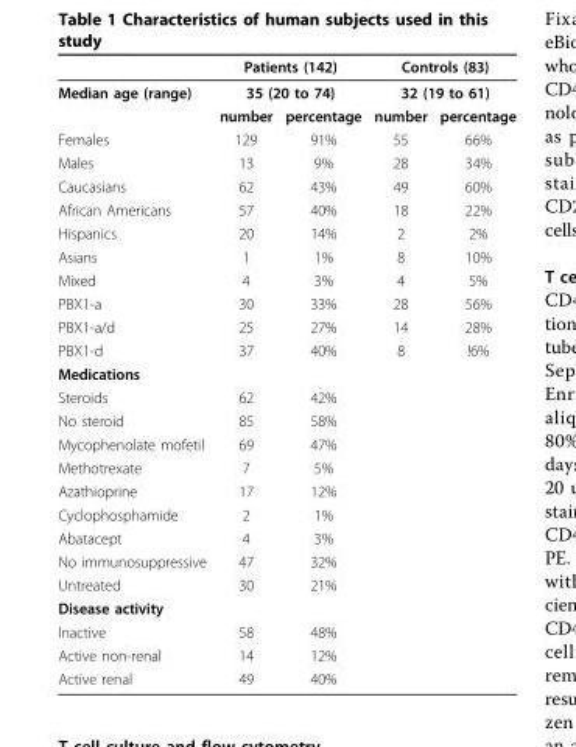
<table><thead><tr><td rowspan="3">Median age (range)</td><td rowspan="2" colspan="2">Patients (142) 35 (20 to 74)</td><td rowspan="2" colspan="2">Controls (83) 32 (19 to 61)</td></tr><tr></tr><tr><td>number</td><td>percentage</td><td>number</td><td>percentage</td></tr></thead><tbody><tr><td>Females</td><td>129</td><td>91%</td><td>55</td><td>66%</td></tr><tr><td>Males</td><td>13</td><td>9%</td><td>28</td><td>34%</td></tr><tr><td>Caucasians</td><td>62</td><td>43%</td><td>49</td><td>60%</td></tr><tr><td>African Americans</td><td>57</td><td>40%</td><td>18</td><td>22%</td></tr><tr><td>Hispanics</td><td>20</td><td>14%</td><td>2</td><td>2%</td></tr><tr><td>Asians</td><td>1</td><td>1%</td><td>8</td><td>10%</td></tr><tr><td>Mixed</td><td>4</td><td>3%</td><td>4</td><td>5%</td></tr><tr><td>PBX1-a</td><td>30</td><td>33%</td><td>28</td><td>56%</td></tr><tr><td>PBX1-a/d</td><td>25</td><td>27%</td><td>14</td><td>28%</td></tr><tr><td>PBX1-d</td><td>37</td><td>40%</td><td>8</td><td>!6%</td></tr><tr><td colspan="5">Medications</td></tr><tr><td>Steroids</td><td>62</td><td>42%</td><td></td><td></td></tr><tr><td>No steroid</td><td>85</td><td>58%</td><td></td><td></td></tr><tr><td>Mycophenolate mofetil</td><td>69</td><td>47%</td><td></td><td></td></tr><tr><td>Methotrexate</td><td>7</td><td>5%</td><td></td><td></td></tr><tr><td>Azathioprine</td><td>17</td><td>12%</td><td></td><td></td></tr><tr><td>Cyclophosphamide</td><td>2</td><td>1%</td><td></td><td></td></tr><tr><td>Abatacept</td><td>4</td><td>3%</td><td></td><td></td></tr><tr><td>No immunosuppressive</td><td>47</td><td>32%</td><td></td><td></td></tr><tr><td>Untreated</td><td>30</td><td>21%</td><td></td><td></td></tr><tr><td colspan="5">Disease activity</td></tr><tr><td>Inactive</td><td>58</td><td>48%</td><td></td><td></td></tr><tr><td>Active non-renal</td><td>14</td><td>12%</td><td></td><td></td></tr><tr><td>Active renal</td><td>49</td><td>40%</td><td></td><td></td></tr></tbody></table>